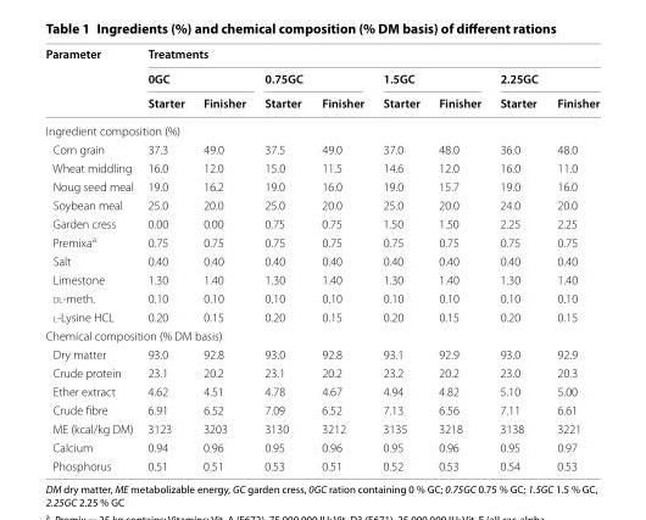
<table><thead><tr><td rowspan="3">Parameter</td><td colspan="8">Treatments</td></tr><tr><td colspan="2">0GC</td><td colspan="2">0.75GC</td><td colspan="2">1.5GC</td><td colspan="2">2.25GC</td></tr><tr><td>Starter</td><td>Finisher</td><td>Starter</td><td>Finisher</td><td>Starter</td><td>Finisher</td><td>Starter</td><td>Finisher</td></tr></thead><tbody><tr><td colspan="9">Ingredient composition (%)</td></tr><tr><td>Corn grain</td><td>37.3</td><td>49.0</td><td>37.5</td><td>49.0</td><td>37.0</td><td>48.0</td><td>36.0</td><td>48.0</td></tr><tr><td>Wheat middling</td><td>16.0</td><td>12.0</td><td>15.0</td><td>11.5</td><td>14.6</td><td>12.0</td><td>16.0</td><td>11.0</td></tr><tr><td>Noug seed meal</td><td>19.0</td><td>16.2</td><td>19.0</td><td>16.0</td><td>19.0</td><td>15.7</td><td>19.0</td><td>16.0</td></tr><tr><td>Soybean meal</td><td>25.0</td><td>20.0</td><td>25.0</td><td>20.0</td><td>25.0</td><td>20.0</td><td>24.0</td><td>20.0</td></tr><tr><td>Garden cress</td><td>0.00</td><td>0.00</td><td>0.75</td><td>0.75</td><td>1.50</td><td>1.50</td><td>2.25</td><td>2.25</td></tr><tr><td>Premixa<sup>a</sup></td><td>0.75</td><td>0.75</td><td>0.75</td><td>0.75</td><td>0.75</td><td>0.75</td><td>0.75</td><td>0.75</td></tr><tr><td>Salt</td><td>0.40</td><td>0.40</td><td>0.40</td><td>0.40</td><td>0.40</td><td>0.40</td><td>0.40</td><td>0.40</td></tr><tr><td>Limestone</td><td>1.30</td><td>1.40</td><td>1.30</td><td>1.40</td><td>1.30</td><td>1.40</td><td>1.30</td><td>1.40</td></tr><tr><td>dl-meth.</td><td>0.10</td><td>0.10</td><td>0.10</td><td>0.10</td><td>0.10</td><td>0.10</td><td>0.10</td><td>0.10</td></tr><tr><td>l-Lysine HCL</td><td>0.20</td><td>0.15</td><td>0.20</td><td>0.15</td><td>0.20</td><td>0.15</td><td>0.20</td><td>0.15</td></tr><tr><td colspan="9">Chemical composition (% DM basis)</td></tr><tr><td>Dry matter</td><td>93.0</td><td>92.8</td><td>93.0</td><td>92.8</td><td>93.1</td><td>92.9</td><td>93.0</td><td>92.9</td></tr><tr><td>Crude protein</td><td>23.1</td><td>20.2</td><td>23.1</td><td>20.2</td><td>23.2</td><td>20.2</td><td>23.0</td><td>20.3</td></tr><tr><td>Ether extract</td><td>4.62</td><td>4.51</td><td>4.78</td><td>4.67</td><td>4.94</td><td>4.82</td><td>5.10</td><td>5.00</td></tr><tr><td>Crude fibre</td><td>6.91</td><td>6.52</td><td>7.09</td><td>6.52</td><td>7.13</td><td>6.56</td><td>7.11</td><td>6.61</td></tr><tr><td>ME (kcal/kg DM)</td><td>3123</td><td>3203</td><td>3130</td><td>3212</td><td>3135</td><td>3218</td><td>3138</td><td>3221</td></tr><tr><td>Calcium</td><td>0.94</td><td>0.96</td><td>0.95</td><td>0.96</td><td>0.95</td><td>0.96</td><td>0.95</td><td>0.97</td></tr><tr><td>Phosphorus</td><td>0.51</td><td>0.51</td><td>0.53</td><td>0.51</td><td>0.52</td><td>0.53</td><td>0.54</td><td>0.53</td></tr></tbody></table>